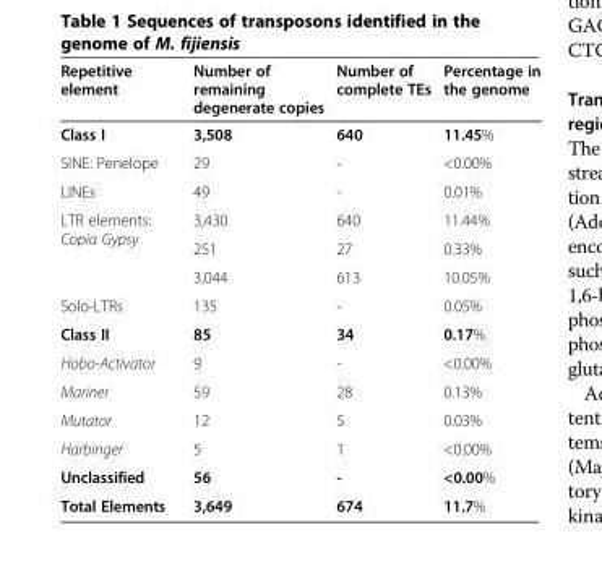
<table><thead><tr><td>Repetitive element</td><td>Number of remaining degenerate copies</td><td>Number of complete TEs</td><td>Percentage in the genome</td></tr></thead><tbody><tr><td>Class I</td><td>3,508</td><td>640</td><td>11.45%</td></tr><tr><td>SINE: Penelope</td><td>29</td><td>-</td><td>&lt;0.00%</td></tr><tr><td>LINEs</td><td>49</td><td>-</td><td>0.01%</td></tr><tr><td rowspan="3">LTR elements: Copia Gypsy</td><td>3,430</td><td>640</td><td>11.44%</td></tr><tr><td>251</td><td>27</td><td>0.33%</td></tr><tr><td>3,044</td><td>613</td><td>10.05%</td></tr><tr><td>Solo-LTRs</td><td>135</td><td>-</td><td>0.05%</td></tr><tr><td>Class II</td><td>85</td><td>34</td><td>0.17%</td></tr><tr><td>Hobo-Activator</td><td>9</td><td>-</td><td>&lt;0.00%</td></tr><tr><td>Mariner</td><td>59</td><td>28</td><td>0.13%</td></tr><tr><td>Mutator</td><td>12</td><td>5</td><td>0.03%</td></tr><tr><td>Harbinger</td><td>5</td><td>1</td><td>&lt;0.00%</td></tr><tr><td>Unclassified</td><td>56</td><td>-</td><td>&lt;0.00%</td></tr><tr><td>Total Elements</td><td>3,649</td><td>674</td><td>11.7%</td></tr></tbody></table>